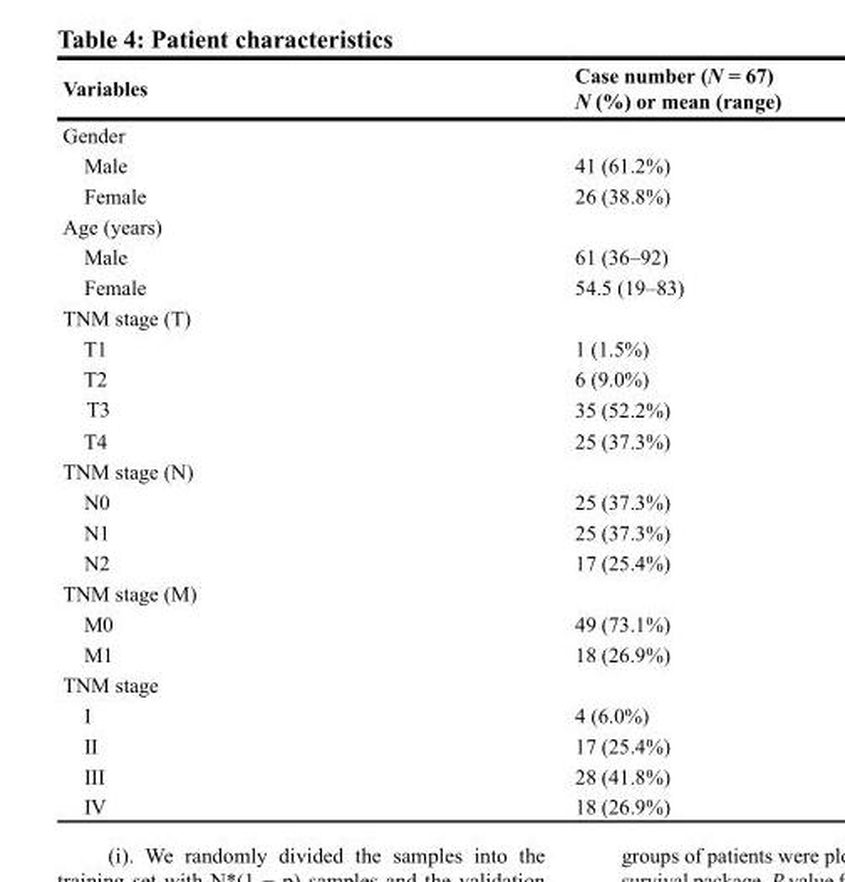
<table><thead><tr><td>Variables</td><td>Case number (N = 67) N (%) or mean (range)</td></tr></thead><tbody><tr><td colspan="2">Gender</td></tr><tr><td>Male</td><td>41 (61.2%)</td></tr><tr><td>Female</td><td>26 (38.8%)</td></tr><tr><td colspan="2">Age (years)</td></tr><tr><td>Male</td><td>61 (36–92)</td></tr><tr><td>Female</td><td>54.5 (19–83)</td></tr><tr><td colspan="2">TNM stage (T)</td></tr><tr><td>T1</td><td>1 (1.5%)</td></tr><tr><td>T2</td><td>6 (9.0%)</td></tr><tr><td>T3</td><td>35 (52.2%)</td></tr><tr><td>T4</td><td>25 (37.3%)</td></tr><tr><td colspan="2">TNM stage (N)</td></tr><tr><td>N0</td><td>25 (37.3%)</td></tr><tr><td>N1</td><td>25 (37.3%)</td></tr><tr><td>N2</td><td>17 (25.4%)</td></tr><tr><td colspan="2">TNM stage (M)</td></tr><tr><td>M0</td><td>49 (73.1%)</td></tr><tr><td>M1</td><td>18 (26.9%)</td></tr><tr><td colspan="2">TNM stage</td></tr><tr><td>I</td><td>4 (6.0%)</td></tr><tr><td>II</td><td>17 (25.4%)</td></tr><tr><td>III</td><td>28 (41.8%)</td></tr><tr><td>IV</td><td>18 (26.9%)</td></tr></tbody></table>